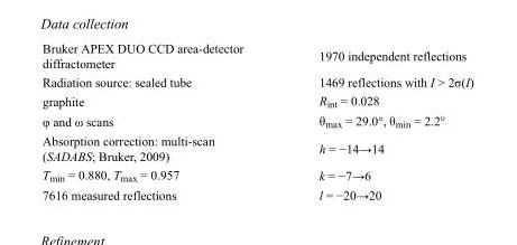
<table><tbody><tr><td>Bruker APEX DUO CCD area-detector diffractometer</td><td>1970 independent reflections</td></tr><tr><td>Radiation source: sealed tube</td><td>1469 reflections with I &gt; 2σ(I)</td></tr><tr><td>graphite</td><td>R<sub>int</sub> = 0.028</td></tr><tr><td>φ and ω scans</td><td>θ<sub>max</sub> = 29.0°, θ<sub>min</sub> = 2.2°</td></tr><tr><td>Absorption correction: multi-scan (SADABS; Bruker, 2009)</td><td>h = −14→14</td></tr><tr><td>T<sub>min</sub> = 0.880, T<sub>max</sub> = 0.957</td><td>k = −7→6</td></tr><tr><td>7616 measured reflections</td><td>l = −20→20</td></tr></tbody></table>